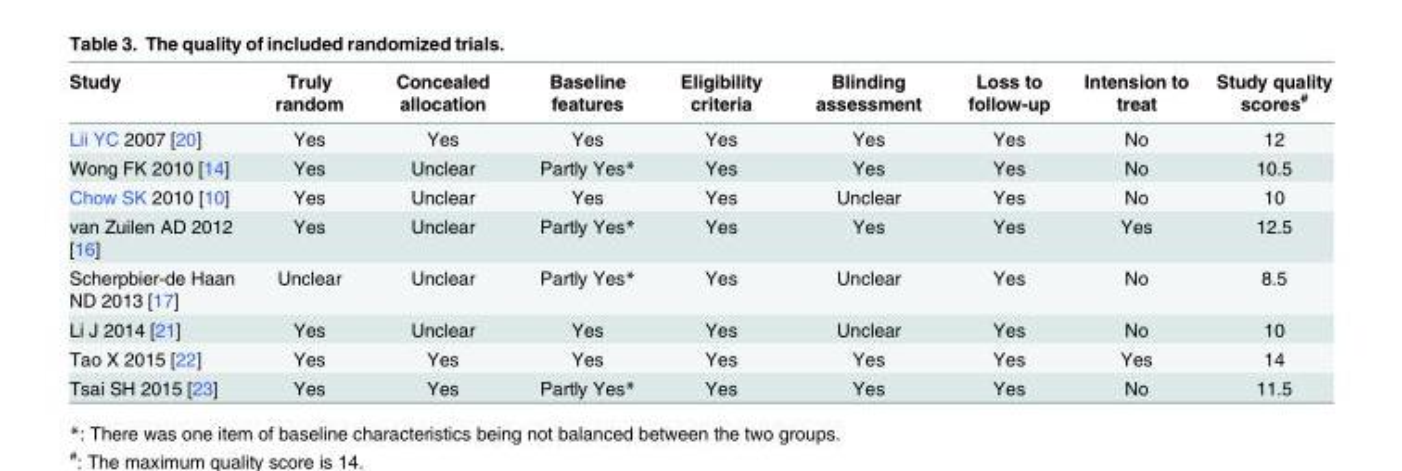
<table><thead><tr><td>Study</td><td>Truly random</td><td>Concealed allocation</td><td>Baseline features</td><td>Eligibility criteria</td><td>Blinding assessment</td><td>Loss to follow-up</td><td>Intension to treat</td><td>Study quality scores<sup>#</sup></td></tr></thead><tbody><tr><td>Lii YC 2007 [20]</td><td>Yes</td><td>Yes</td><td>Yes</td><td>Yes</td><td>Yes</td><td>Yes</td><td>No</td><td>12</td></tr><tr><td>Wong FK 2010 [14]</td><td>Yes</td><td>Unclear</td><td>Partly Yes*</td><td>Yes</td><td>Yes</td><td>Yes</td><td>No</td><td>10.5</td></tr><tr><td>Chow SK 2010 [10]</td><td>Yes</td><td>Unclear</td><td>Yes</td><td>Yes</td><td>Unclear</td><td>Yes</td><td>No</td><td>10</td></tr><tr><td>van Zuilen AD 2012 [16]</td><td>Yes</td><td>Unclear</td><td>Partly Yes*</td><td>Yes</td><td>Yes</td><td>Yes</td><td>Yes</td><td>12.5</td></tr><tr><td>Scherpbier-de Haan ND 2013 [17]</td><td>Unclear</td><td>Unclear</td><td>Partly Yes*</td><td>Yes</td><td>Unclear</td><td>Yes</td><td>No</td><td>8.5</td></tr><tr><td>Li J 2014 [21]</td><td>Yes</td><td>Unclear</td><td>Yes</td><td>Yes</td><td>Unclear</td><td>Yes</td><td>No</td><td>10</td></tr><tr><td>Tao X 2015 [22]</td><td>Yes</td><td>Yes</td><td>Yes</td><td>Yes</td><td>Yes</td><td>Yes</td><td>Yes</td><td>14</td></tr><tr><td>Tsai SH 2015 [23]</td><td>Yes</td><td>Yes</td><td>Partly Yes*</td><td>Yes</td><td>Yes</td><td>Yes</td><td>No</td><td>11.5</td></tr></tbody></table>